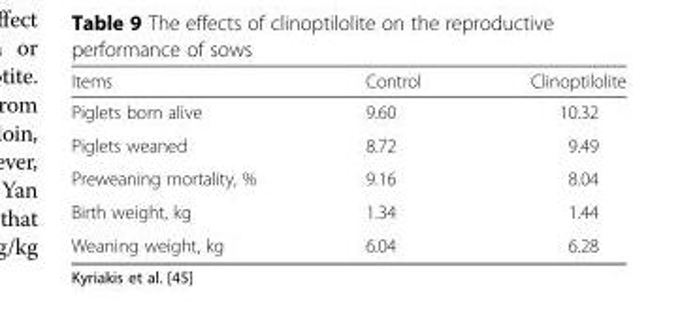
<table><thead><tr><td>Items</td><td>Control</td><td>Clinoptilolite</td></tr></thead><tbody><tr><td>Piglets born alive</td><td>9.60</td><td>10.32</td></tr><tr><td>Piglets weaned</td><td>8.72</td><td>9.49</td></tr><tr><td>Preweaning mortality, %</td><td>9.16</td><td>8.04</td></tr><tr><td>Birth weight, kg</td><td>1.34</td><td>1.44</td></tr><tr><td>Weaning weight, kg</td><td>6.04</td><td>6.28</td></tr></tbody></table>